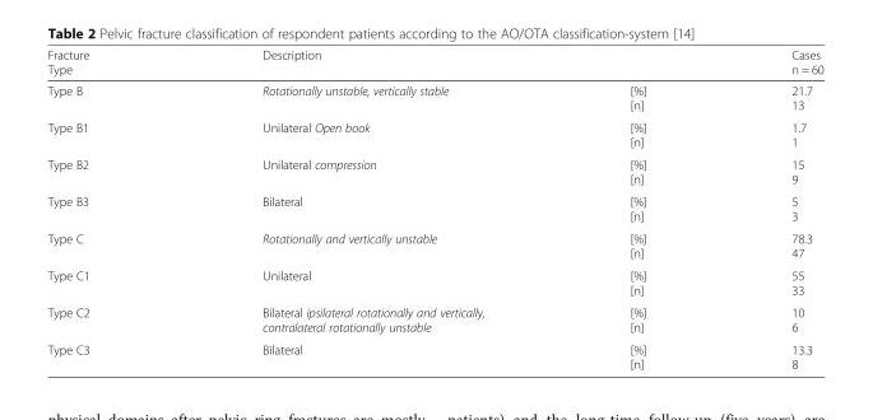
<table><thead><tr><td>Fracture Type</td><td>Description</td><td></td><td>Cases n = 60</td></tr></thead><tbody><tr><td>Type B</td><td>Rotationally unstable, vertically stable</td><td>[%] [n]</td><td>21.7 13</td></tr><tr><td>Type B1</td><td>Unilateral Open book</td><td>[%] [n]</td><td>1.7 1</td></tr><tr><td>Type B2</td><td>Unilateral compression</td><td>[%] [n]</td><td>15 9</td></tr><tr><td>Type B3</td><td>Bilateral</td><td>[%] [n]</td><td>5 3</td></tr><tr><td>Type C</td><td>Rotationally and vertically unstable</td><td>[%] [n]</td><td>78.3 47</td></tr><tr><td>Type C1</td><td>Unilateral</td><td>[%] [n]</td><td>55 33</td></tr><tr><td>Type C2</td><td>Bilateral ipsilateral rotationally and vertically, contralateral rotationally unstable</td><td>[%] [n]</td><td>10 6</td></tr><tr><td>Type C3</td><td>Bilateral</td><td>[%] [n]</td><td>13.3 8</td></tr></tbody></table>